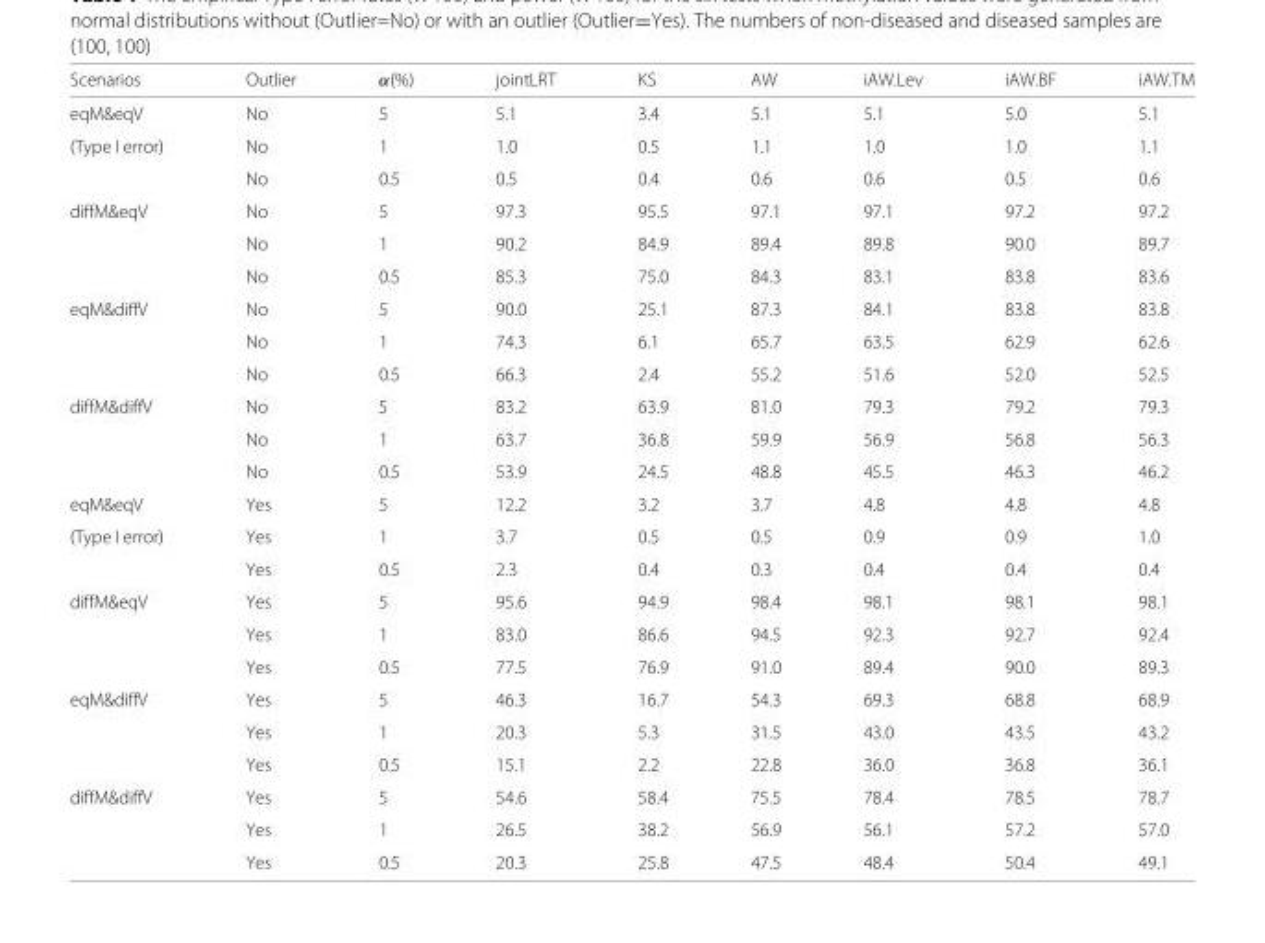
<table><thead><tr><td>Scenarios</td><td>Outlier</td><td>α(%)</td><td>jointLRT</td><td>KS</td><td>AW</td><td>iAW.Lev</td><td>iAW.BF</td><td>iAW.TM</td></tr></thead><tbody><tr><td>eqM&amp;eqV</td><td>No</td><td>5</td><td>5.1</td><td>3.4</td><td>5.1</td><td>5.1</td><td>5.0</td><td>5.1</td></tr><tr><td rowspan="2">(Type I error)</td><td>No</td><td>1</td><td>1.0</td><td>0.5</td><td>1.1</td><td>1.0</td><td>1.0</td><td>1.1</td></tr><tr><td>No</td><td>0.5</td><td>0.5</td><td>0.4</td><td>0.6</td><td>0.6</td><td>0.5</td><td>0.6</td></tr><tr><td rowspan="3">diffM&amp;eqV</td><td>No</td><td>5</td><td>97.3</td><td>95.5</td><td>97.1</td><td>97.1</td><td>97.2</td><td>97.2</td></tr><tr><td>No</td><td>1</td><td>90.2</td><td>84.9</td><td>89.4</td><td>89.8</td><td>90.0</td><td>89.7</td></tr><tr><td>No</td><td>0.5</td><td>85.3</td><td>75.0</td><td>84.3</td><td>83.1</td><td>83.8</td><td>83.6</td></tr><tr><td rowspan="3">eqM&amp;diffV</td><td>No</td><td>5</td><td>90.0</td><td>25.1</td><td>87.3</td><td>84.1</td><td>83.8</td><td>83.8</td></tr><tr><td>No</td><td>1</td><td>74.3</td><td>6.1</td><td>65.7</td><td>63.5</td><td>62.9</td><td>62.6</td></tr><tr><td>No</td><td>0.5</td><td>66.3</td><td>2.4</td><td>55.2</td><td>51.6</td><td>52.0</td><td>52.5</td></tr><tr><td rowspan="3">diffM&amp;diffV</td><td>No</td><td>5</td><td>83.2</td><td>63.9</td><td>81.0</td><td>79.3</td><td>79.2</td><td>79.3</td></tr><tr><td>No</td><td>1</td><td>63.7</td><td>36.8</td><td>59.9</td><td>56.9</td><td>56.8</td><td>56.3</td></tr><tr><td>No</td><td>0.5</td><td>53.9</td><td>24.5</td><td>48.8</td><td>45.5</td><td>46.3</td><td>46.2</td></tr><tr><td>eqM&amp;eqV</td><td>Yes</td><td>5</td><td>12.2</td><td>3.2</td><td>3.7</td><td>4.8</td><td>4.8</td><td>4.8</td></tr><tr><td rowspan="2">(Type I error)</td><td>Yes</td><td>1</td><td>3.7</td><td>0.5</td><td>0.5</td><td>0.9</td><td>0.9</td><td>1.0</td></tr><tr><td>Yes</td><td>0.5</td><td>2.3</td><td>0.4</td><td>0.3</td><td>0.4</td><td>0.4</td><td>0.4</td></tr><tr><td rowspan="3">diffM&amp;eqV</td><td>Yes</td><td>5</td><td>95.6</td><td>94.9</td><td>98.4</td><td>98.1</td><td>98.1</td><td>98.1</td></tr><tr><td>Yes</td><td>1</td><td>83.0</td><td>86.6</td><td>94.5</td><td>92.3</td><td>92.7</td><td>92.4</td></tr><tr><td>Yes</td><td>0.5</td><td>77.5</td><td>76.9</td><td>91.0</td><td>89.4</td><td>90.0</td><td>89.3</td></tr><tr><td rowspan="3">eqM&amp;diffV</td><td>Yes</td><td>5</td><td>46.3</td><td>16.7</td><td>54.3</td><td>69.3</td><td>68.8</td><td>68.9</td></tr><tr><td>Yes</td><td>1</td><td>20.3</td><td>5.3</td><td>31.5</td><td>43.0</td><td>43.5</td><td>43.2</td></tr><tr><td>Yes</td><td>0.5</td><td>15.1</td><td>2.2</td><td>22.8</td><td>36.0</td><td>36.8</td><td>36.1</td></tr><tr><td rowspan="3">diffM&amp;diffV</td><td>Yes</td><td>5</td><td>54.6</td><td>58.4</td><td>75.5</td><td>78.4</td><td>78.5</td><td>78.7</td></tr><tr><td>Yes</td><td>1</td><td>26.5</td><td>38.2</td><td>56.9</td><td>56.1</td><td>57.2</td><td>57.0</td></tr><tr><td>Yes</td><td>0.5</td><td>20.3</td><td>25.8</td><td>47.5</td><td>48.4</td><td>50.4</td><td>49.1</td></tr></tbody></table>